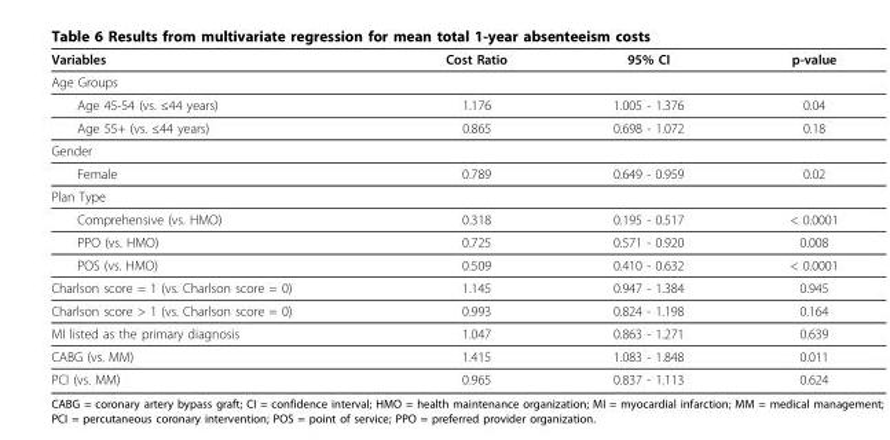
<table><thead><tr><td>Variables</td><td>Cost Ratio</td><td>95% CI</td><td>p-value</td></tr></thead><tbody><tr><td colspan="4">Age Groups</td></tr><tr><td>Age 45-54 (vs. ≤44 years)</td><td>1.176</td><td>1.005 - 1.376</td><td>0.04</td></tr><tr><td>Age 55+ (vs. ≤44 years)</td><td>0.865</td><td>0.698 - 1.072</td><td>0.18</td></tr><tr><td colspan="4">Gender</td></tr><tr><td>Female</td><td>0.789</td><td>0.649 - 0.959</td><td>0.02</td></tr><tr><td colspan="4">Plan Type</td></tr><tr><td>Comprehensive (vs. HMO)</td><td>0.318</td><td>0.195 - 0.517</td><td>&lt; 0.0001</td></tr><tr><td>PPO (vs. HMO)</td><td>0.725</td><td>0.571 - 0.920</td><td>0.008</td></tr><tr><td>POS (vs. HMO)</td><td>0.509</td><td>0.410 - 0.632</td><td>&lt; 0.0001</td></tr><tr><td>Charlson score = 1 (vs. Charlson score = 0)</td><td>1.145</td><td>0.947 - 1.384</td><td>0.945</td></tr><tr><td>Charlson score &gt; 1 (vs. Charlson score = 0)</td><td>0.993</td><td>0.824 - 1.198</td><td>0.164</td></tr><tr><td>MI listed as the primary diagnosis</td><td>1.047</td><td>0.863 - 1.271</td><td>0.639</td></tr><tr><td>CABG (vs. MM)</td><td>1.415</td><td>1.083 - 1.848</td><td>0.011</td></tr><tr><td>PCI (vs. MM)</td><td>0.965</td><td>0.837 - 1.113</td><td>0.624</td></tr></tbody></table>